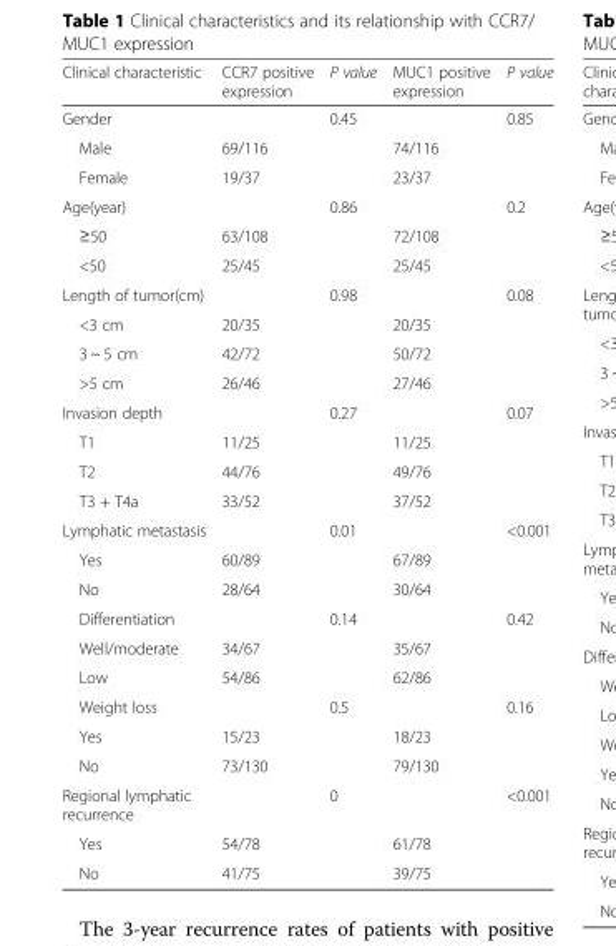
<table><thead><tr><td>Clinical characteristic</td><td>CCR7 positive expression</td><td>P value</td><td>MUC1 positive expression</td><td>P value</td></tr></thead><tbody><tr><td>Gender</td><td></td><td>0.45</td><td></td><td>0.85</td></tr><tr><td>Male</td><td>69/116</td><td></td><td>74/116</td><td></td></tr><tr><td>Female</td><td>19/37</td><td></td><td>23/37</td><td></td></tr><tr><td>Age(year)</td><td></td><td>0.86</td><td></td><td>0.2</td></tr><tr><td>≥50</td><td>63/108</td><td></td><td>72/108</td><td></td></tr><tr><td>&lt;50</td><td>25/45</td><td></td><td>25/45</td><td></td></tr><tr><td>Length of tumor(cm)</td><td></td><td>0.98</td><td></td><td>0.08</td></tr><tr><td>&lt;3 cm</td><td>20/35</td><td></td><td>20/35</td><td></td></tr><tr><td>3 ~ 5 cm</td><td>42/72</td><td></td><td>50/72</td><td></td></tr><tr><td>&gt;5 cm</td><td>26/46</td><td></td><td>27/46</td><td></td></tr><tr><td>Invasion depth</td><td></td><td>0.27</td><td></td><td>0.07</td></tr><tr><td>T1</td><td>11/25</td><td></td><td>11/25</td><td></td></tr><tr><td>T2</td><td>44/76</td><td></td><td>49/76</td><td></td></tr><tr><td>T3 + T4a</td><td>33/52</td><td></td><td>37/52</td><td></td></tr><tr><td>Lymphatic metastasis</td><td></td><td>0.01</td><td></td><td>&lt;0.001</td></tr><tr><td>Yes</td><td>60/89</td><td></td><td>67/89</td><td></td></tr><tr><td>No</td><td>28/64</td><td></td><td>30/64</td><td></td></tr><tr><td>Differentiation</td><td></td><td>0.14</td><td></td><td>0.42</td></tr><tr><td>Well/moderate</td><td>34/67</td><td></td><td>35/67</td><td></td></tr><tr><td>Low</td><td>54/86</td><td></td><td>62/86</td><td></td></tr><tr><td>Weight loss</td><td></td><td>0.5</td><td></td><td>0.16</td></tr><tr><td>Yes</td><td>15/23</td><td></td><td>18/23</td><td></td></tr><tr><td>No</td><td>73/130</td><td></td><td>79/130</td><td></td></tr><tr><td>Regional lymphatic recurrence</td><td></td><td>0</td><td></td><td>&lt;0.001</td></tr><tr><td>Yes</td><td>54/78</td><td></td><td>61/78</td><td></td></tr><tr><td>No</td><td>41/75</td><td></td><td>39/75</td><td></td></tr></tbody></table>